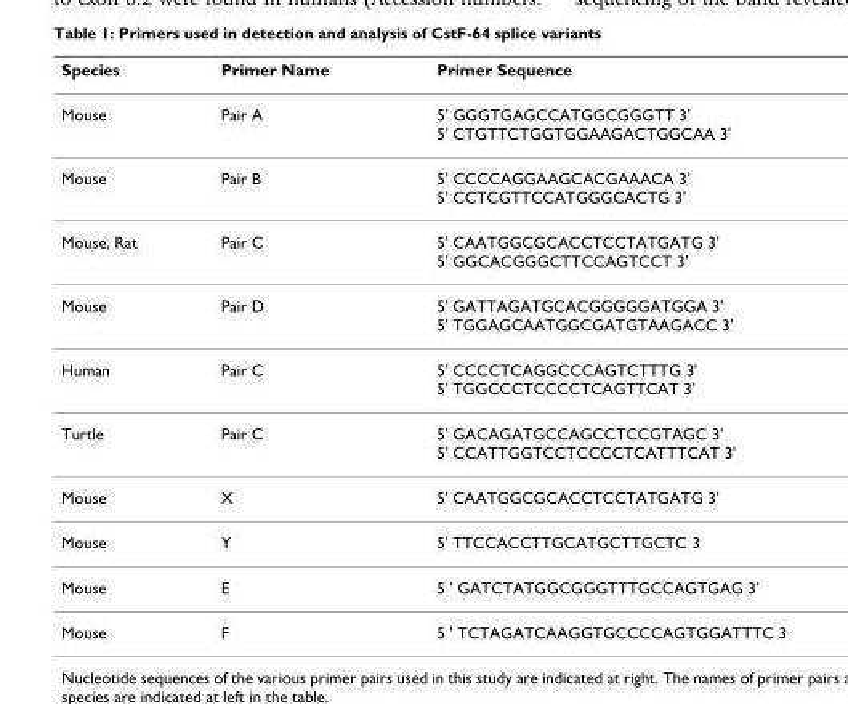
<table><thead><tr><td>Species</td><td>Primer Name</td><td>Primer Sequence</td></tr></thead><tbody><tr><td>Mouse</td><td>Pair A</td><td>5&#x27; GGGTGAGCCATGGCGGGTT 3&#x27; 5&#x27; CTGTTCTGGTGGAAGACTGGCAA 3&#x27;</td></tr><tr><td>Mouse</td><td>Pair B</td><td>5&#x27; CCCCAGGAAGCACGAAACA 3&#x27; 5&#x27; CCTCGTTCCATGGGCACTG 3&#x27;</td></tr><tr><td>Mouse, Rat</td><td>Pair C</td><td>5&#x27; CAATGGCGCACCTCCTATGATG 3&#x27; 5&#x27; GGCACGGGCTTCCAGTCCT 3&#x27;</td></tr><tr><td>Mouse</td><td>Pair D</td><td>5&#x27; GATTAGATGCACGGGGGATGGA 3&#x27; 5&#x27; TGGAGCAATGGCGATGTAAGACC 3&#x27;</td></tr><tr><td>Human</td><td>Pair C</td><td>5&#x27; CCCCTCAGGCCCAGTCTTTG 3&#x27; 5&#x27; TGGCCCTCCCCTCAGTTCAT 3&#x27;</td></tr><tr><td>Turtle</td><td>Pair C</td><td>5&#x27; GACAGATGCCAGCCTCCGTAGC 3&#x27; 5&#x27; CCATTGGTCCTCCCCTCATTTCAT 3&#x27;</td></tr><tr><td>Mouse</td><td>X</td><td>5&#x27; CAATGGCGCACCTCCTATGATG 3&#x27;</td></tr><tr><td>Mouse</td><td>Y</td><td>5&#x27; TTCCACCTTGCATGCTTGCTC 3</td></tr><tr><td>Mouse</td><td>E</td><td>5 &#x27; GATCTATGGCGGGTTTGCCAGTGAG 3&#x27;</td></tr><tr><td>Mouse</td><td>F</td><td>5 &#x27; TCTAGATCAAGGTGCCCCAGTGGATTTC 3</td></tr></tbody></table>